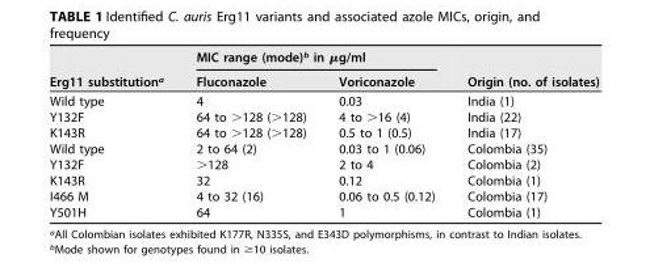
<table><thead><tr><td rowspan="2">Erg11 substitution<sup>a</sup></td><td colspan="2">MIC range (mode)<sup>b</sup> in µg/ml</td><td rowspan="2">Origin (no. of isolates)</td></tr><tr><td>Fluconazole</td><td>Voriconazole</td></tr></thead><tbody><tr><td>Wild type</td><td>4</td><td>0.03</td><td>India (1)</td></tr><tr><td>Y132F</td><td>64 to &gt;128 (&gt;128)</td><td>4 to &gt;16 (4)</td><td>India (22)</td></tr><tr><td>K143R</td><td>64 to &gt;128 (&gt;128)</td><td>0.5 to 1 (0.5)</td><td>India (17)</td></tr><tr><td>Wild type</td><td>2 to 64 (2)</td><td>0.03 to 1 (0.06)</td><td>Colombia (35)</td></tr><tr><td>Y132F</td><td>&gt;128</td><td>2 to 4</td><td>Colombia (2)</td></tr><tr><td>K143R</td><td>32</td><td>0.12</td><td>Colombia (1)</td></tr><tr><td>I466 M</td><td>4 to 32 (16)</td><td>0.06 to 0.5 (0.12)</td><td>Colombia (17)</td></tr><tr><td>Y501H</td><td>64</td><td>1</td><td>Colombia (1)</td></tr></tbody></table>